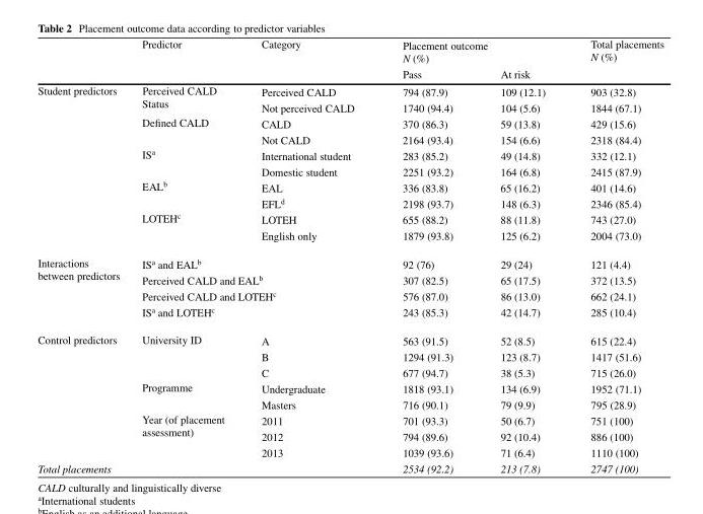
<table><thead><tr><td rowspan="2"></td><td rowspan="2">Predictor</td><td rowspan="2">Category</td><td colspan="2">Placement outcome N (%)</td><td rowspan="2">Total placements N (%)</td></tr><tr><td>Pass</td><td>At risk</td></tr></thead><tbody><tr><td rowspan="10">Student predictors</td><td rowspan="2">Perceived CALD Status</td><td>Perceived CALD</td><td>794 (87.9)</td><td>109 (12.1)</td><td>903 (32.8)</td></tr><tr><td>Not perceived CALD</td><td>1740 (94.4)</td><td>104 (5.6)</td><td>1844 (67.1)</td></tr><tr><td rowspan="2">Defined CALD</td><td>CALD</td><td>370 (86.3)</td><td>59 (13.8)</td><td>429 (15.6)</td></tr><tr><td>Not CALD</td><td>2164 (93.4)</td><td>154 (6.6)</td><td>2318 (84.4)</td></tr><tr><td rowspan="2">IS<sup>a</sup></td><td>International student</td><td>283 (85.2)</td><td>49 (14.8)</td><td>332 (12.1)</td></tr><tr><td>Domestic student</td><td>2251 (93.2)</td><td>164 (6.8)</td><td>2415 (87.9)</td></tr><tr><td rowspan="2">EAL<sup>b</sup></td><td>EAL</td><td>336 (83.8)</td><td>65 (16.2)</td><td>401 (14.6)</td></tr><tr><td>EFL<sup>d</sup></td><td>2198 (93.7)</td><td>148 (6.3)</td><td>2346 (85.4)</td></tr><tr><td rowspan="2">LOTEH<sup>c</sup></td><td>LOTEH</td><td>655 (88.2)</td><td>88 (11.8)</td><td>743 (27.0)</td></tr><tr><td>English only</td><td>1879 (93.8)</td><td>125 (6.2)</td><td>2004 (73.0)</td></tr><tr><td rowspan="4">Interactions between predictors</td><td colspan="2">IS<sup>a</sup> and EAL<sup>b</sup></td><td>92 (76)</td><td>29 (24)</td><td>121 (4.4)</td></tr><tr><td colspan="2">Perceived CALD and EAL<sup>b</sup></td><td>307 (82.5)</td><td>65 (17.5)</td><td>372 (13.5)</td></tr><tr><td colspan="2">Perceived CALD and LOTEH<sup>c</sup></td><td>576 (87.0)</td><td>86 (13.0)</td><td>662 (24.1)</td></tr><tr><td colspan="2">IS<sup>a</sup> and LOTEH<sup>c</sup></td><td>243 (85.3)</td><td>42 (14.7)</td><td>285 (10.4)</td></tr><tr><td rowspan="8">Control predictors</td><td rowspan="3">University ID</td><td>A</td><td>563 (91.5)</td><td>52 (8.5)</td><td>615 (22.4)</td></tr><tr><td>B</td><td>1294 (91.3)</td><td>123 (8.7)</td><td>1417 (51.6)</td></tr><tr><td>C</td><td>677 (94.7)</td><td>38 (5.3)</td><td>715 (26.0)</td></tr><tr><td rowspan="2">Programme</td><td>Undergraduate</td><td>1818 (93.1)</td><td>134 (6.9)</td><td>1952 (71.1)</td></tr><tr><td>Masters</td><td>716 (90.1)</td><td>79 (9.9)</td><td>795 (28.9)</td></tr><tr><td rowspan="3">Year (of placement assessment)</td><td>2011</td><td>701 (93.3)</td><td>50 (6.7)</td><td>751 (100)</td></tr><tr><td>2012</td><td>794 (89.6)</td><td>92 (10.4)</td><td>886 (100)</td></tr><tr><td>2013</td><td>1039 (93.6)</td><td>71 (6.4)</td><td>1110 (100)</td></tr><tr><td colspan="3">Total placements</td><td>2534 (92.2)</td><td>213 (7.8)</td><td>2747 (100)</td></tr></tbody></table>